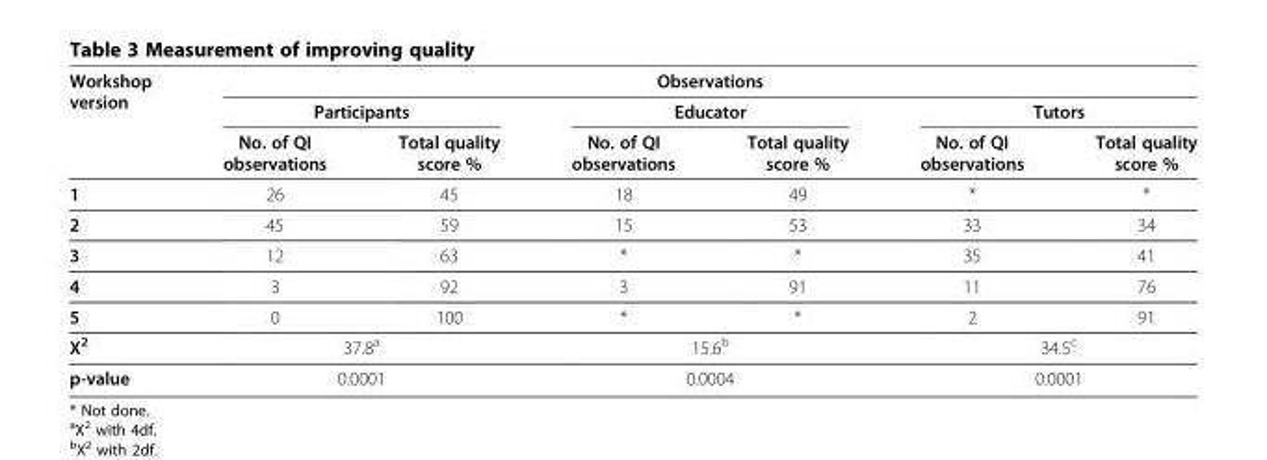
<table><thead><tr><td rowspan="3">Workshop version</td><td colspan="6">Observations</td></tr><tr><td colspan="2">Participants</td><td colspan="2">Educator</td><td colspan="2">Tutors</td></tr><tr><td>No. of QI observations</td><td>Total quality score %</td><td>No. of QI observations</td><td>Total quality score %</td><td>No. of QI observations</td><td>Total quality score %</td></tr></thead><tbody><tr><td>1</td><td>26</td><td>45</td><td>18</td><td>49</td><td>*</td><td>*</td></tr><tr><td>2</td><td>45</td><td>59</td><td>15</td><td>53</td><td>33</td><td>34</td></tr><tr><td>3</td><td>12</td><td>63</td><td>*</td><td>*</td><td>35</td><td>41</td></tr><tr><td>4</td><td>3</td><td>92</td><td>3</td><td>91</td><td>11</td><td>76</td></tr><tr><td>5</td><td>0</td><td>100</td><td>*</td><td>*</td><td>2</td><td>91</td></tr><tr><td>X<sup>2</sup></td><td colspan="2">37.8<sup>a</sup></td><td colspan="2">15.6<sup>b</sup></td><td colspan="2">34.5<sup>c</sup></td></tr><tr><td>p-value</td><td colspan="2">0.0001</td><td colspan="2">0.0004</td><td colspan="2">0.0001</td></tr></tbody></table>